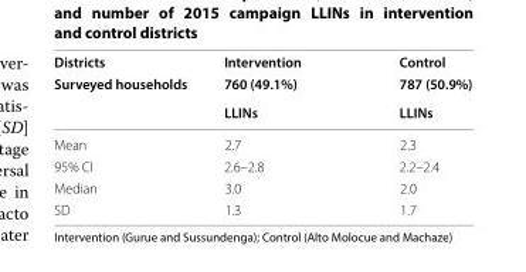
<table><thead><tr><td rowspan="3">Districts Surveyed households</td><td rowspan="3">Intervention 760 (49.1%) LLINs</td><td rowspan="3">Control 787 (50.9%) LLINs</td></tr><tr></tr><tr></tr></thead><tbody><tr><td>Mean</td><td>2.7</td><td>2.3</td></tr><tr><td>95% CI</td><td>2.6–2.8</td><td>2.2–2.4</td></tr><tr><td>Median</td><td>3.0</td><td>2.0</td></tr><tr><td>SD</td><td>1.3</td><td>1.7</td></tr></tbody></table>